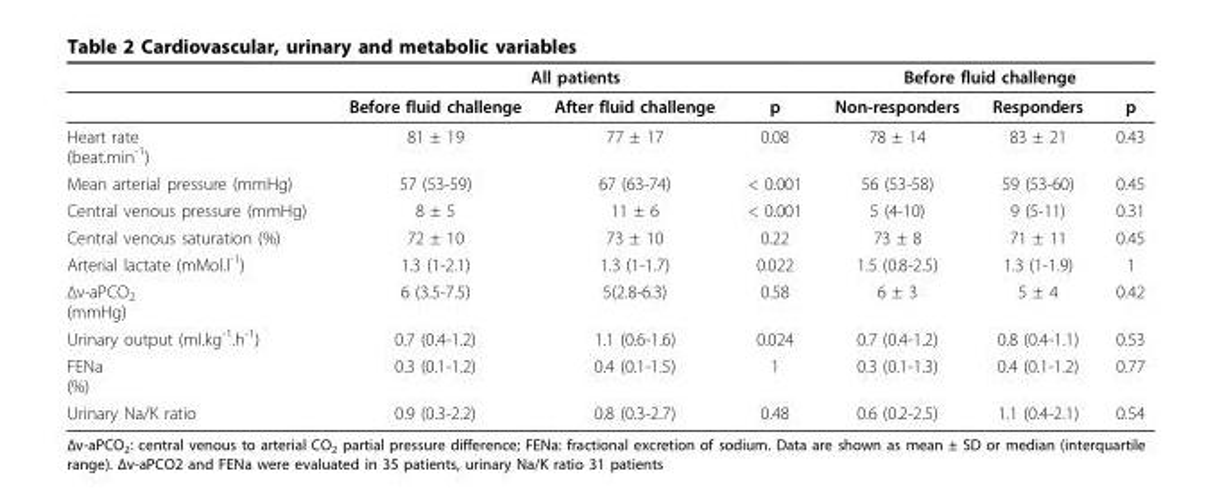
<table><thead><tr><td rowspan="2"></td><td colspan="3">All patients</td><td colspan="3">Before fluid challenge</td></tr><tr><td>Before fluid challenge</td><td>After fluid challenge</td><td>p</td><td>Non-responders</td><td>Responders</td><td>p</td></tr></thead><tbody><tr><td>Heart rate (beat.min<sup>-1</sup>)</td><td>81 ± 19</td><td>77 ± 17</td><td>0.08</td><td>78 ± 14</td><td>83 ± 21</td><td>0.43</td></tr><tr><td>Mean arterial pressure (mmHg)</td><td>57 (53-59)</td><td>67 (63-74)</td><td>&lt; 0.001</td><td>56 (53-58)</td><td>59 (53-60)</td><td>0.45</td></tr><tr><td>Central venous pressure (mmHg)</td><td>8 ± 5</td><td>11 ± 6</td><td>&lt; 0.001</td><td>5 (4-10)</td><td>9 (5-11)</td><td>0.31</td></tr><tr><td>Central venous saturation (%)</td><td>72 ± 10</td><td>73 ± 10</td><td>0.22</td><td>73 ± 8</td><td>71 ± 11</td><td>0.45</td></tr><tr><td>Arterial lactate (mMol.l<sup>-1</sup>)</td><td>1.3 (1-2.1)</td><td>1.3 (1-1.7)</td><td>0.022</td><td>1.5 (0.8-2.5)</td><td>1.3 (1-1.9)</td><td>1</td></tr><tr><td>Δv-aPCO<sub>2</sub> (mmHg)</td><td>6 (3.5-7.5)</td><td>5(2.8-6.3)</td><td>0.58</td><td>6 ± 3</td><td>5 ± 4</td><td>0.42</td></tr><tr><td>Urinary output (ml.kg<sup>-1</sup>.h<sup>-1</sup>)</td><td>0.7 (0.4-1.2)</td><td>1.1 (0.6-1.6)</td><td>0.024</td><td>0.7 (0.4-1.2)</td><td>0.8 (0.4-1.1)</td><td>0.53</td></tr><tr><td>FENa (%)</td><td>0.3 (0.1-1.2)</td><td>0.4 (0.1-1.5)</td><td>1</td><td>0.3 (0.1-1.3)</td><td>0.4 (0.1-1.2)</td><td>0.77</td></tr><tr><td>Urinary Na/K ratio</td><td>0.9 (0.3-2.2)</td><td>0.8 (0.3-2.7)</td><td>0.48</td><td>0.6 (0.2-2.5)</td><td>1.1 (0.4-2.1)</td><td>0.54</td></tr></tbody></table>